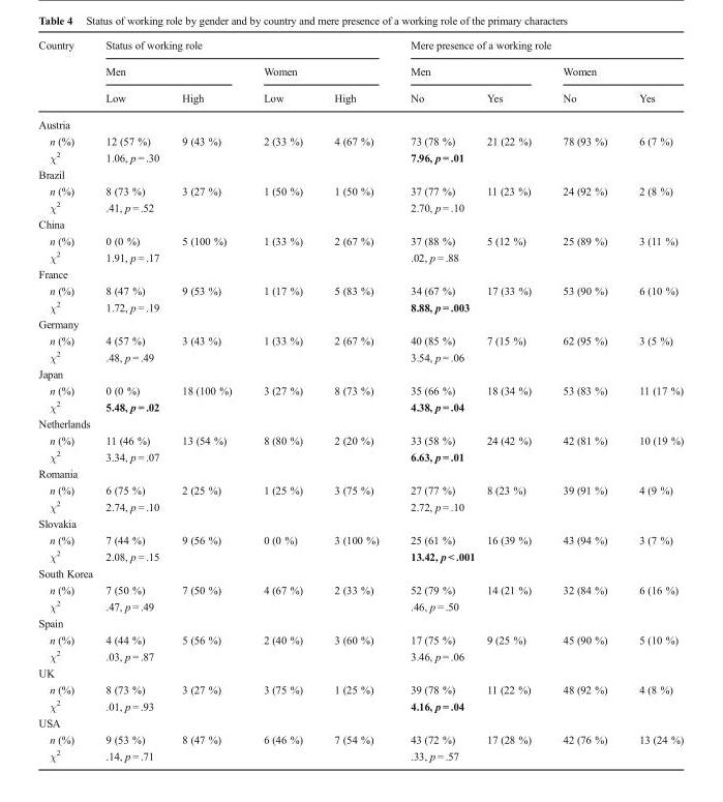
<table><thead><tr><td rowspan="3">Country</td><td colspan="4">Status of working role</td><td colspan="4">Mere presence of a working role</td></tr><tr><td colspan="2">Men</td><td colspan="2">Women</td><td colspan="2">Men</td><td colspan="2">Women</td></tr><tr><td>Low</td><td>High</td><td>Low</td><td>High</td><td>No</td><td>Yes</td><td>No</td><td>Yes</td></tr></thead><tbody><tr><td colspan="9">Austria</td></tr><tr><td>n (%)</td><td>12 (57 %)</td><td>9 (43 %)</td><td>2 (33 %)</td><td>4 (67 %)</td><td>73 (78 %)</td><td>21 (22 %)</td><td>78 (93 %)</td><td>6 (7 %)</td></tr><tr><td>χ<sup>2</sup></td><td colspan="4">1.06, p = .30</td><td colspan="4">7.96, p = .01</td></tr><tr><td colspan="9">Brazil</td></tr><tr><td>n (%)</td><td>8 (73 %)</td><td>3 (27 %)</td><td>1 (50 %)</td><td>1 (50 %)</td><td>37 (77 %)</td><td>11 (23 %)</td><td>24 (92 %)</td><td>2 (8 %)</td></tr><tr><td>χ<sup>2</sup></td><td colspan="4">.41, p = .52</td><td colspan="4">2.70, p = .10</td></tr><tr><td colspan="9">China</td></tr><tr><td>n (%)</td><td>0 (0 %)</td><td>5 (100 %)</td><td>1 (33 %)</td><td>2 (67 %)</td><td>37 (88 %)</td><td>5 (12 %)</td><td>25 (89 %)</td><td>3 (11 %)</td></tr><tr><td>χ<sup>2</sup></td><td colspan="4">1.91, p = .17</td><td colspan="4">.02, p = .88</td></tr><tr><td colspan="9">France</td></tr><tr><td>n (%)</td><td>8 (47 %)</td><td>9 (53 %)</td><td>1 (17 %)</td><td>5 (83 %)</td><td>34 (67 %)</td><td>17 (33 %)</td><td>53 (90 %)</td><td>6 (10 %)</td></tr><tr><td>χ<sup>2</sup></td><td colspan="4">1.72, p = .19</td><td colspan="4">8.88, p = .003</td></tr><tr><td colspan="9">Germany</td></tr><tr><td>n (%)</td><td>4 (57 %)</td><td>3 (43 %)</td><td>1 (33 %)</td><td>2 (67 %)</td><td>40 (85 %)</td><td>7 (15 %)</td><td>62 (95 %)</td><td>3 (5 %)</td></tr><tr><td>χ<sup>2</sup></td><td colspan="4">.48, p = .49</td><td colspan="4">3.54, p = .06</td></tr><tr><td colspan="9">Japan</td></tr><tr><td>n (%)</td><td>0 (0 %)</td><td>18 (100 %)</td><td>3 (27 %)</td><td>8 (73 %)</td><td>35 (66 %)</td><td>18 (34 %)</td><td>53 (83 %)</td><td>11 (17 %)</td></tr><tr><td>χ<sup>2</sup></td><td colspan="4">5.48, p = .02</td><td colspan="4">4.38, p = .04</td></tr><tr><td colspan="9">Netherlands</td></tr><tr><td>n (%)</td><td>11 (46 %)</td><td>13 (54 %)</td><td>8 (80 %)</td><td>2 (20 %)</td><td>33 (58 %)</td><td>24 (42 %)</td><td>42 (81 %)</td><td>10 (19 %)</td></tr><tr><td>χ<sup>2</sup></td><td colspan="4">3.34, p = .07</td><td colspan="4">6.63, p = .01</td></tr><tr><td colspan="9">Romania</td></tr><tr><td>n (%)</td><td>6 (75 %)</td><td>2 (25 %)</td><td>1 (25 %)</td><td>3 (75 %)</td><td>27 (77 %)</td><td>8 (23 %)</td><td>39 (91 %)</td><td>4 (9 %)</td></tr><tr><td>χ<sup>2</sup></td><td colspan="4">2.74, p = .10</td><td colspan="4">2.72, p = .10</td></tr><tr><td colspan="9">Slovakia</td></tr><tr><td>n (%)</td><td>7 (44 %)</td><td>9 (56 %)</td><td>0 (0 %)</td><td>3 (100 %)</td><td>25 (61 %)</td><td>16 (39 %)</td><td>43 (94 %)</td><td>3 (7 %)</td></tr><tr><td>χ<sup>2</sup></td><td colspan="4">2.08, p = .15</td><td colspan="4">13.42, p &lt; .001</td></tr><tr><td colspan="9">South Korea</td></tr><tr><td>n (%)</td><td>7 (50 %)</td><td>7 (50 %)</td><td>4 (67 %)</td><td>2 (33 %)</td><td>52 (79 %)</td><td>14 (21 %)</td><td>32 (84 %)</td><td>6 (16 %)</td></tr><tr><td>χ<sup>2</sup></td><td colspan="4">.47, p = .49</td><td colspan="4">.46, p = .50</td></tr><tr><td colspan="9">Spain</td></tr><tr><td>n (%)</td><td>4 (44 %)</td><td>5 (56 %)</td><td>2 (40 %)</td><td>3 (60 %)</td><td>17 (75 %)</td><td>9 (25 %)</td><td>45 (90 %)</td><td>5 (10 %)</td></tr><tr><td>χ<sup>2</sup></td><td colspan="4">.03, p = .87</td><td colspan="4">3.46, p = .06</td></tr><tr><td colspan="9">UK</td></tr><tr><td>n (%)</td><td>8 (73 %)</td><td>3 (27 %)</td><td>3 (75 %)</td><td>1 (25 %)</td><td>39 (78 %)</td><td>11 (22 %)</td><td>48 (92 %)</td><td>4 (8 %)</td></tr><tr><td>χ<sup>2</sup></td><td colspan="4">.01, p = .93</td><td colspan="4">4.16, p = .04</td></tr><tr><td colspan="9">USA</td></tr><tr><td>n (%)</td><td>9 (53 %)</td><td>8 (47 %)</td><td>6 (46 %)</td><td>7 (54 %)</td><td>43 (72 %)</td><td>17 (28 %)</td><td>42 (76 %)</td><td>13 (24 %)</td></tr><tr><td>χ<sup>2</sup></td><td colspan="4">.14, p = .71</td><td colspan="4">.33, p = .57</td></tr></tbody></table>